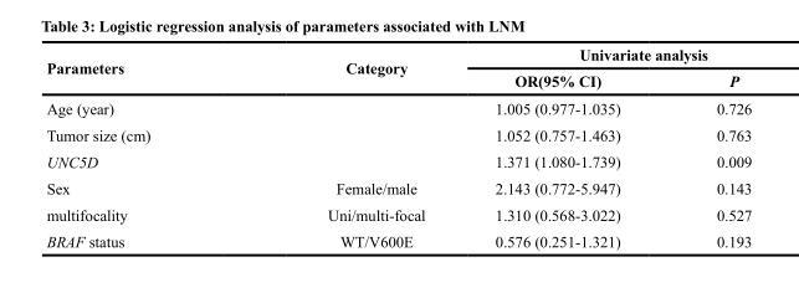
<table><thead><tr><td rowspan="2">Parameters</td><td rowspan="2">Category</td><td colspan="2">Univariate analysis</td></tr><tr><td>OR(95% CI)</td><td>P</td></tr></thead><tbody><tr><td>Age (year)</td><td></td><td>1.005 (0.977-1.035)</td><td>0.726</td></tr><tr><td>Tumor size (cm)</td><td></td><td>1.052 (0.757-1.463)</td><td>0.763</td></tr><tr><td>UNC5D</td><td></td><td>1.371 (1.080-1.739)</td><td>0.009</td></tr><tr><td>Sex</td><td>Female/male</td><td>2.143 (0.772-5.947)</td><td>0.143</td></tr><tr><td>multifocality</td><td>Uni/multi-focal</td><td>1.310 (0.568-3.022)</td><td>0.527</td></tr><tr><td>BRAF status</td><td>WT/V600E</td><td>0.576 (0.251-1.321)</td><td>0.193</td></tr></tbody></table>